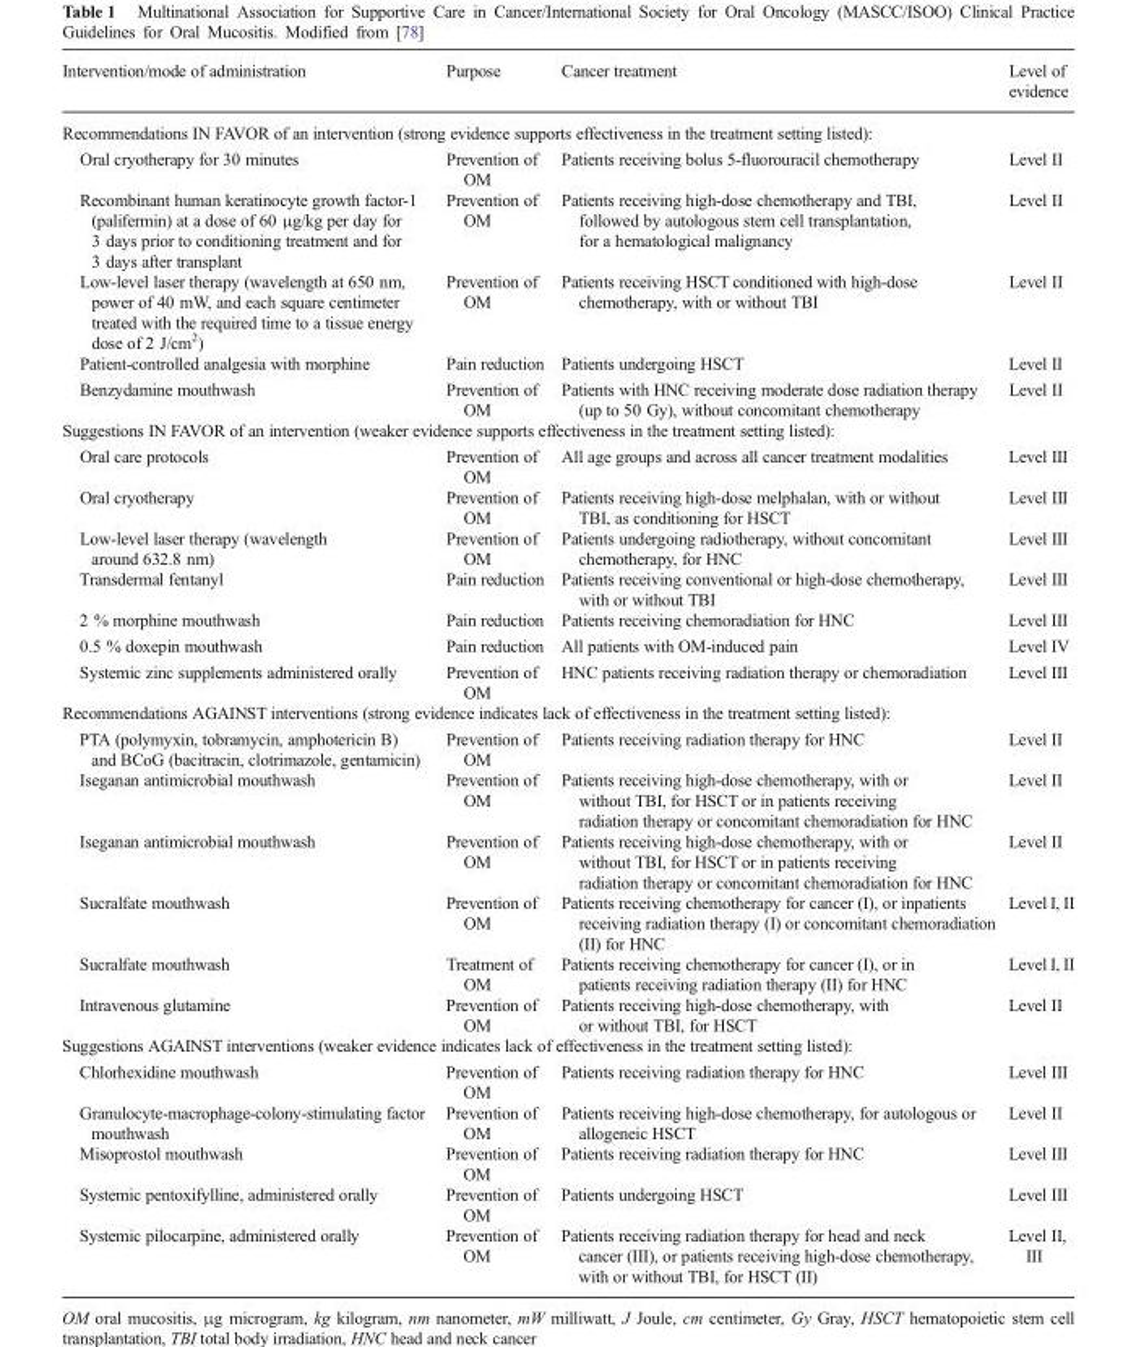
<table><thead><tr><td>Intervention/mode of administration</td><td>Purpose</td><td>Cancer treatment</td><td>Level of evidence</td></tr></thead><tbody><tr><td colspan="4">Recommendations IN FAVOR of an intervention (strong evidence supports effectiveness in the treatment setting listed):</td></tr><tr><td>Oral cryotherapy for 30 minutes</td><td>Prevention of OM</td><td>Patients receiving bolus 5-fluorouracil chemotherapy</td><td>Level II</td></tr><tr><td>Recombinant human keratinocyte growth factor-1 (palifermin) at a dose of 60 μg/kg per day for 3 days prior to conditioning treatment and for 3 days after transplant</td><td>Prevention of OM</td><td>Patients receiving high-dose chemotherapy and TBI, followed by autologous stem cell transplantation, for a hematological malignancy</td><td>Level II</td></tr><tr><td>Low-level laser therapy (wavelength at 650 nm, power of 40 mW, and each square centimeter treated with the required time to a tissue energy dose of 2 J/cm<sup>2</sup>)</td><td>Prevention of OM</td><td>Patients receiving HSCT conditioned with high-dose chemotherapy, with or without TBI</td><td>Level II</td></tr><tr><td>Patient-controlled analgesia with morphine</td><td>Pain reduction</td><td>Patients undergoing HSCT</td><td>Level II</td></tr><tr><td>Benzydamine mouthwash</td><td>Prevention of OM</td><td>Patients with HNC receiving moderate dose radiation therapy (up to 50 Gy), without concomitant chemotherapy</td><td>Level II</td></tr><tr><td colspan="4">Suggestions IN FAVOR of an intervention (weaker evidence supports effectiveness in the treatment setting listed):</td></tr><tr><td>Oral care protocols</td><td>Prevention of OM</td><td>All age groups and across all cancer treatment modalities</td><td>Level III</td></tr><tr><td>Oral cryotherapy</td><td>Prevention of OM</td><td>Patients receiving high-dose melphalan, with or without TBI, as conditioning for HSCT</td><td>Level III</td></tr><tr><td>Low-level laser therapy (wavelength around 632.8 nm)</td><td>Prevention of OM</td><td>Patients undergoing radiotherapy, without concomitant chemotherapy, for HNC</td><td>Level III</td></tr><tr><td>Transdermal fentanyl</td><td>Pain reduction</td><td>Patients receiving conventional or high-dose chemotherapy, with or without TBI</td><td>Level III</td></tr><tr><td>2 % morphine mouthwash</td><td>Pain reduction</td><td>Patients receiving chemoradiation for HNC</td><td>Level III</td></tr><tr><td>0.5 % doxepin mouthwash</td><td>Pain reduction</td><td>All patients with OM-induced pain</td><td>Level IV</td></tr><tr><td>Systemic zinc supplements administered orally</td><td>Prevention of OM</td><td>HNC patients receiving radiation therapy or chemoradiation</td><td>Level III</td></tr><tr><td colspan="4">Recommendations AGAINST interventions (strong evidence indicates lack of effectiveness in the treatment setting listed):</td></tr><tr><td>PTA (polymyxin, tobramycin, amphotericin B) and BCoG (bacitracin, clotrimazole, gentamicin)</td><td>Prevention of OM</td><td>Patients receiving radiation therapy for HNC</td><td>Level II</td></tr><tr><td>Iseganan antimicrobial mouthwash</td><td>Prevention of OM</td><td>Patients receiving high-dose chemotherapy, with or without TBI, for HSCT or in patients receiving radiation therapy or concomitant chemoradiation for HNC</td><td>Level II</td></tr><tr><td>Iseganan antimicrobial mouthwash</td><td>Prevention of OM</td><td>Patients receiving high-dose chemotherapy, with or without TBI, for HSCT or in patients receiving radiation therapy or concomitant chemoradiation for HNC</td><td>Level II</td></tr><tr><td>Sucralfate mouthwash</td><td>Prevention of OM</td><td>Patients receiving chemotherapy for cancer (I), or inpatients receiving radiation therapy (I) or concomitant chemoradiation (II) for HNC</td><td>Level I, II</td></tr><tr><td>Sucralfate mouthwash</td><td>Treatment of OM</td><td>Patients receiving chemotherapy for cancer (I), or in patients receiving radiation therapy (II) for HNC</td><td>Level I, II</td></tr><tr><td>Intravenous glutamine</td><td>Prevention of OM</td><td>Patients receiving high-dose chemotherapy, with or without TBI, for HSCT</td><td>Level II</td></tr><tr><td colspan="4">Suggestions AGAINST interventions (weaker evidence indicates lack of effectiveness in the treatment setting listed):</td></tr><tr><td>Chlorhexidine mouthwash</td><td>Prevention of OM</td><td>Patients receiving radiation therapy for HNC</td><td>Level III</td></tr><tr><td>Granulocyte-macrophage-colony-stimulating factor mouthwash</td><td>Prevention of OM</td><td>Patients receiving high-dose chemotherapy, for autologous or allogeneic HSCT</td><td>Level II</td></tr><tr><td>Misoprostol mouthwash</td><td>Prevention of OM</td><td>Patients receiving radiation therapy for HNC</td><td>Level III</td></tr><tr><td>Systemic pentoxifylline, administered orally</td><td>Prevention of OM</td><td>Patients undergoing HSCT</td><td>Level III</td></tr><tr><td>Systemic pilocarpine, administered orally</td><td>Prevention of OM</td><td>Patients receiving radiation therapy for head and neck cancer (III), or patients receiving high-dose chemotherapy, with or without TBI, for HSCT (II)</td><td>Level II, III</td></tr></tbody></table>